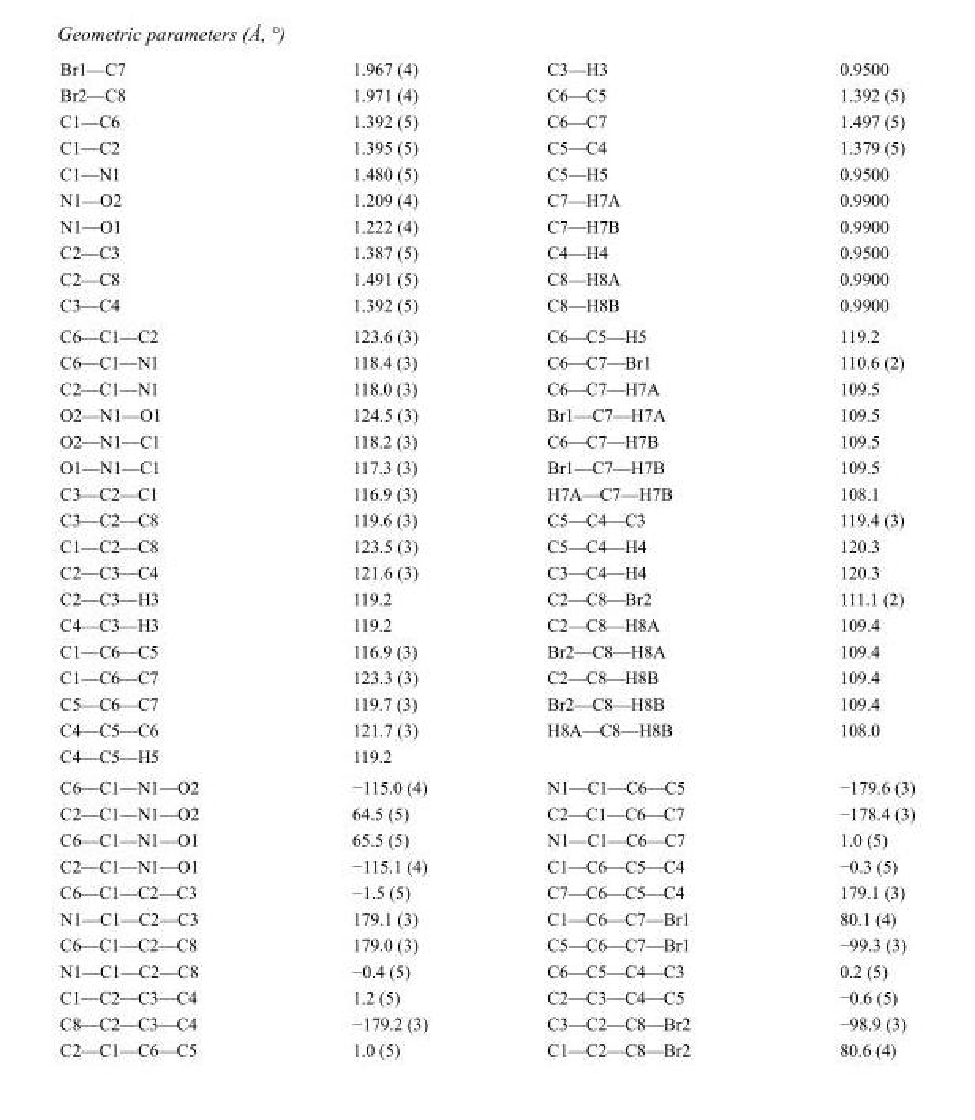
<table><tbody><tr><td>Br1—C7</td><td>1.967 (4)</td><td>C3—H3</td><td>0.9500</td></tr><tr><td>Br2—C8</td><td>1.971 (4)</td><td>C6—C5</td><td>1.392 (5)</td></tr><tr><td>C1—C6</td><td>1.392 (5)</td><td>C6—C7</td><td>1.497 (5)</td></tr><tr><td>C1—C2</td><td>1.395 (5)</td><td>C5—C4</td><td>1.379 (5)</td></tr><tr><td>C1—N1</td><td>1.480 (5)</td><td>C5—H5</td><td>0.9500</td></tr><tr><td>N1—O2</td><td>1.209 (4)</td><td>C7—H7A</td><td>0.9900</td></tr><tr><td>N1—O1</td><td>1.222 (4)</td><td>C7—H7B</td><td>0.9900</td></tr><tr><td>C2—C3</td><td>1.387 (5)</td><td>C4—H4</td><td>0.9500</td></tr><tr><td>C2—C8</td><td>1.491 (5)</td><td>C8—H8A</td><td>0.9900</td></tr><tr><td>C3—C4</td><td>1.392 (5)</td><td>C8—H8B</td><td>0.9900</td></tr><tr><td>C6—C1—C2</td><td>123.6 (3)</td><td>C6—C5—H5</td><td>119.2</td></tr><tr><td>C6—C1—N1</td><td>118.4 (3)</td><td>C6—C7—Br1</td><td>110.6 (2)</td></tr><tr><td>C2—C1—N1</td><td>118.0 (3)</td><td>C6—C7—H7A</td><td>109.5</td></tr><tr><td>O2—N1—O1</td><td>124.5 (3)</td><td>Br1—C7—H7A</td><td>109.5</td></tr><tr><td>O2—N1—C1</td><td>118.2 (3)</td><td>C6—C7—H7B</td><td>109.5</td></tr><tr><td>O1—N1—C1</td><td>117.3 (3)</td><td>Br1—C7—H7B</td><td>109.5</td></tr><tr><td>C3—C2—C1</td><td>116.9 (3)</td><td>H7A—C7—H7B</td><td>108.1</td></tr><tr><td>C3—C2—C8</td><td>119.6 (3)</td><td>C5—C4—C3</td><td>119.4 (3)</td></tr><tr><td>C1—C2—C8</td><td>123.5 (3)</td><td>C5—C4—H4</td><td>120.3</td></tr><tr><td>C2—C3—C4</td><td>121.6 (3)</td><td>C3—C4—H4</td><td>120.3</td></tr><tr><td>C2—C3—H3</td><td>119.2</td><td>C2—C8—Br2</td><td>111.1 (2)</td></tr><tr><td>C4—C3—H3</td><td>119.2</td><td>C2—C8—H8A</td><td>109.4</td></tr><tr><td>C1—C6—C5</td><td>116.9 (3)</td><td>Br2—C8—H8A</td><td>109.4</td></tr><tr><td>C1—C6—C7</td><td>123.3 (3)</td><td>C2—C8—H8B</td><td>109.4</td></tr><tr><td>C5—C6—C7</td><td>119.7 (3)</td><td>Br2—C8—H8B</td><td>109.4</td></tr><tr><td>C4—C5—C6</td><td>121.7 (3)</td><td>H8A—C8—H8B</td><td>108.0</td></tr><tr><td>C4—C5—H5</td><td>119.2</td><td></td><td></td></tr><tr><td>C6—C1—N1—O2</td><td>−115.0 (4)</td><td>N1—C1—C6—C5</td><td>−179.6 (3)</td></tr><tr><td>C2—C1—N1—O2</td><td>64.5 (5)</td><td>C2—C1—C6—C7</td><td>−178.4 (3)</td></tr><tr><td>C6—C1—N1—O1</td><td>65.5 (5)</td><td>N1—C1—C6—C7</td><td>1.0 (5)</td></tr><tr><td>C2—C1—N1—O1</td><td>−115.1 (4)</td><td>C1—C6—C5—C4</td><td>−0.3 (5)</td></tr><tr><td>C6—C1—C2—C3</td><td>−1.5 (5)</td><td>C7—C6—C5—C4</td><td>179.1 (3)</td></tr><tr><td>N1—C1—C2—C3</td><td>179.1 (3)</td><td>C1—C6—C7—Br1</td><td>80.1 (4)</td></tr><tr><td>C6—C1—C2—C8</td><td>179.0 (3)</td><td>C5—C6—C7—Br1</td><td>−99.3 (3)</td></tr><tr><td>N1—C1—C2—C8</td><td>−0.4 (5)</td><td>C6—C5—C4—C3</td><td>0.2 (5)</td></tr><tr><td>C1—C2—C3—C4</td><td>1.2 (5)</td><td>C2—C3—C4—C5</td><td>−0.6 (5)</td></tr><tr><td>C8—C2—C3—C4</td><td>−179.2 (3)</td><td>C3—C2—C8—Br2</td><td>−98.9 (3)</td></tr><tr><td>C2—C1—C6—C5</td><td>1.0 (5)</td><td>C1—C2—C8—Br2</td><td>80.6 (4)</td></tr></tbody></table>